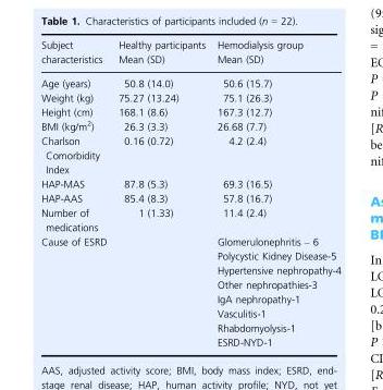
<table><thead><tr><td>Subject characteristics</td><td>Healthy participants Mean (SD)</td><td>Hemodialysis group Mean (SD)</td></tr></thead><tbody><tr><td>Age (years)</td><td>50.8 (14.0)</td><td>50.6 (15.7)</td></tr><tr><td>Weight (kg)</td><td>75.27 (13.24)</td><td>75.1 (26.3)</td></tr><tr><td>Height (cm)</td><td>168.1 (8.6)</td><td>167.3 (12.7)</td></tr><tr><td>BMI (kg/m<sup>2</sup>)</td><td>26.3 (3.3)</td><td>26.68 (7.7)</td></tr><tr><td>Charlson Comorbidity Index</td><td>0.16 (0.72)</td><td>4.2 (2.4)</td></tr><tr><td>HAP-MAS</td><td>87.8 (5.3)</td><td>69.3 (16.5)</td></tr><tr><td>HAP-AAS</td><td>85.4 (8.3)</td><td>57.8 (16.7)</td></tr><tr><td>Number of medications</td><td>1 (1.33)</td><td>11.4 (2.4)</td></tr><tr><td>Cause of ESRD</td><td></td><td>Glomerulonephritis – 6 Polycystic Kidney Disease-5 Hypertensive nephropathy-4 Other nephropathies-3 IgA nephropathy-1 Vasculitis-1 Rhabdomyolysis-1 ESRD-NYD-1</td></tr></tbody></table>